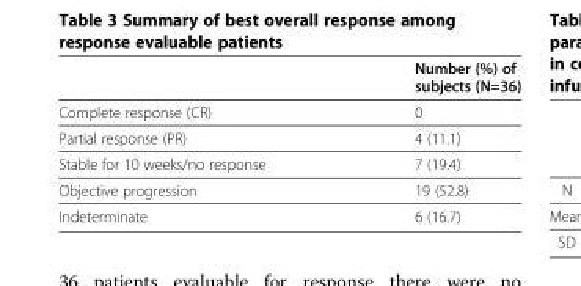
<table><thead><tr><td></td><td>Number (%) of subjects (N=36)</td></tr></thead><tbody><tr><td>Complete response (CR)</td><td>0</td></tr><tr><td>Partial response (PR)</td><td>4 (11.1)</td></tr><tr><td>Stable for 10 weeks/no response</td><td>7 (19.4)</td></tr><tr><td>Objective progression</td><td>19 (52.8)</td></tr><tr><td>Indeterminate</td><td>6 (16.7)</td></tr></tbody></table>